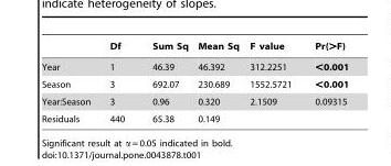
<table><thead><tr><td></td><td>Df</td><td>Sum Sq</td><td>Mean Sq</td><td>F value</td><td>Pr(&gt;F)</td></tr></thead><tbody><tr><td>Year</td><td>1</td><td>46.39</td><td>46.392</td><td>312.2251</td><td>&lt;0.001</td></tr><tr><td>Season</td><td>3</td><td>692.07</td><td>230.689</td><td>1552.5721</td><td>&lt;0.001</td></tr><tr><td>Year:Season</td><td>3</td><td>0.96</td><td>0.320</td><td>2.1509</td><td>0.09315</td></tr><tr><td>Residuals</td><td>440</td><td>65.38</td><td>0.149</td><td></td><td></td></tr></tbody></table>